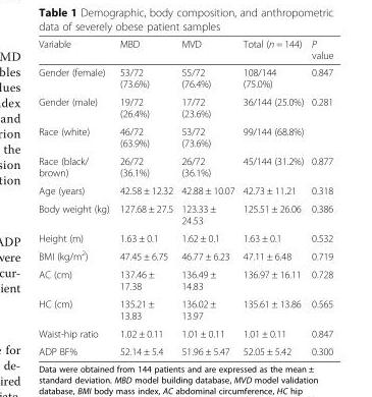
<table><thead><tr><td>Variable</td><td>MBD</td><td>MVD</td><td>Total (n = 144)</td><td>P value</td></tr></thead><tbody><tr><td>Gender (female)</td><td>53/72 (73.6%)</td><td>55/72 (76.4%)</td><td>108/144 (75.0%)</td><td>0.847</td></tr><tr><td>Gender (male)</td><td>19/72 (26.4%)</td><td>17/72 (23.6%)</td><td>36/144 (25.0%)</td><td>0.281</td></tr><tr><td>Race (white)</td><td>46/72 (63.9%)</td><td>53/72 (73.6%)</td><td>99/144 (68.8%)</td><td></td></tr><tr><td>Race (black/ brown)</td><td>26/72 (36.1%)</td><td>26/72 (36.1%)</td><td>45/144 (31.2%)</td><td>0.877</td></tr><tr><td>Age (years)</td><td>42.58 ± 12.32</td><td>42.88 ± 10.07</td><td>42.73 ± 11.21</td><td>0.318</td></tr><tr><td>Body weight (kg)</td><td>127.68 ± 27.5</td><td>123.33 ± 24.53</td><td>125.51 ± 26.06</td><td>0.386</td></tr><tr><td>Height (m)</td><td>1.63 ± 0.1</td><td>1.62 ± 0.1</td><td>1.63 ± 0.1</td><td>0.532</td></tr><tr><td>BMI (kg/m<sup>2</sup>)</td><td>47.45 ± 6.75</td><td>46.77 ± 6.23</td><td>47.11 ± 6.48</td><td>0.719</td></tr><tr><td>AC (cm)</td><td>137.46 ± 17.38</td><td>136.49 ± 14.83</td><td>136.97 ± 16.11</td><td>0.728</td></tr><tr><td>HC (cm)</td><td>135.21 ± 13.83</td><td>136.02 ± 13.97</td><td>135.61 ± 13.86</td><td>0.565</td></tr><tr><td>Waist-hip ratio</td><td>1.02 ± 0.11</td><td>1.01 ± 0.11</td><td>1.01 ± 0.11</td><td>0.847</td></tr><tr><td>ADP BF%</td><td>52.14 ± 5.4</td><td>51.96 ± 5.47</td><td>52.05 ± 5.42</td><td>0.300</td></tr></tbody></table>